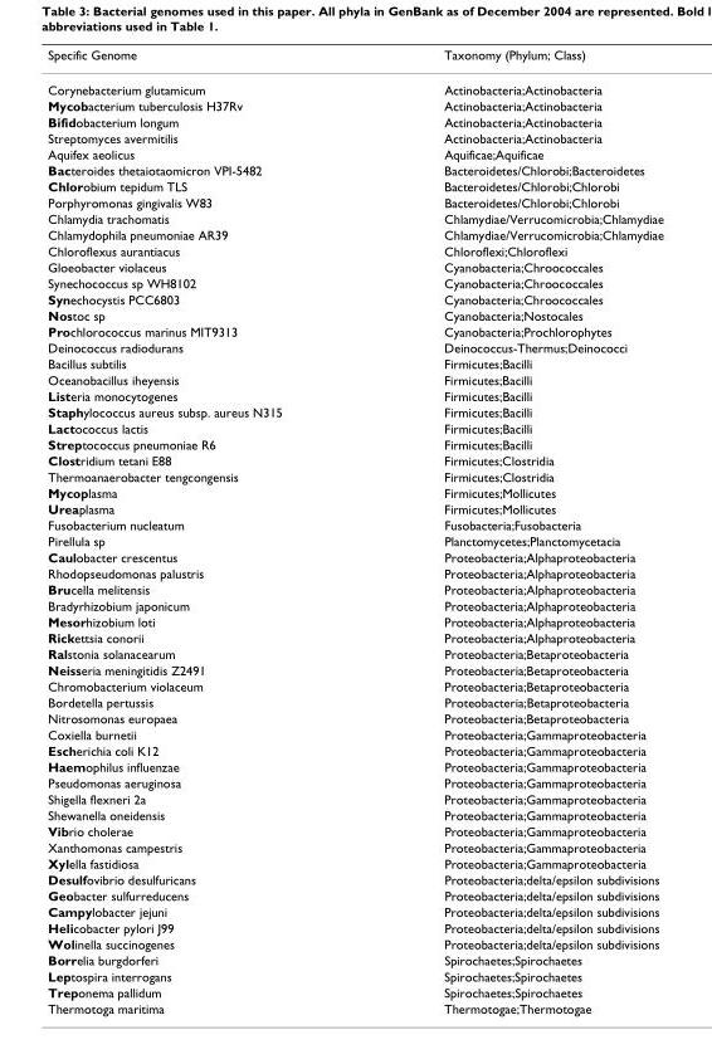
<table><thead><tr><td>Specific Genome</td><td>Taxonomy (Phylum; Class)</td></tr></thead><tbody><tr><td>Corynebacterium glutamicum</td><td>Actinobacteria;Actinobacteria</td></tr><tr><td>Mycobacterium tuberculosis H37Rv</td><td>Actinobacteria;Actinobacteria</td></tr><tr><td>Bifidobacterium longum</td><td>Actinobacteria;Actinobacteria</td></tr><tr><td>Streptomyces avermitilis</td><td>Actinobacteria;Actinobacteria</td></tr><tr><td>Aquifex aeolicus</td><td>Aquificae;Aquificae</td></tr><tr><td>Bacteroides thetaiotaomicron VPI-5482</td><td>Bacteroidetes/Chlorobi;Bacteroidetes</td></tr><tr><td>Chlorobium tepidum TLS</td><td>Bacteroidetes/Chlorobi;Chlorobi</td></tr><tr><td>Porphyromonas gingivalis W83</td><td>Bacteroidetes/Chlorobi;Chlorobi</td></tr><tr><td>Chlamydia trachomatis</td><td>Chlamydiae/Verrucomicrobia;Chlamydiae</td></tr><tr><td>Chlamydophila pneumoniae AR39</td><td>Chlamydiae/Verrucomicrobia;Chlamydiae</td></tr><tr><td>Chloroflexus aurantiacus</td><td>Chloroflexi;Chloroflexi</td></tr><tr><td>Gloeobacter violaceus</td><td>Cyanobacteria;Chroococcales</td></tr><tr><td>Synechococcus sp WH8102</td><td>Cyanobacteria;Chroococcales</td></tr><tr><td>Synechocystis PCC6803</td><td>Cyanobacteria;Chroococcales</td></tr><tr><td>Nostoc sp</td><td>Cyanobacteria;Nostocales</td></tr><tr><td>Prochlorococcus marinus MIT9313</td><td>Cyanobacteria;Prochlorophytes</td></tr><tr><td>Deinococcus radiodurans</td><td>Deinococcus-Thermus;Deinococci</td></tr><tr><td>Bacillus subtilis</td><td>Firmicutes;Bacilli</td></tr><tr><td>Oceanobacillus iheyensis</td><td>Firmicutes;Bacilli</td></tr><tr><td>Listeria monocytogenes</td><td>Firmicutes;Bacilli</td></tr><tr><td>Staphylococcus aureus subsp. aureus N315</td><td>Firmicutes;Bacilli</td></tr><tr><td>Lactococcus lactis</td><td>Firmicutes;Bacilli</td></tr><tr><td>Streptococcus pneumoniae R6</td><td>Firmicutes;Bacilli</td></tr><tr><td>Clostridium tetani E88</td><td>Firmicutes;Clostridia</td></tr><tr><td>Thermoanaerobacter tengcongensis</td><td>Firmicutes;Clostridia</td></tr><tr><td>Mycoplasma</td><td>Firmicutes;Mollicutes</td></tr><tr><td>Ureaplasma</td><td>Firmicutes;Mollicutes</td></tr><tr><td>Fusobacterium nucleatum</td><td>Fusobacteria;Fusobacteria</td></tr><tr><td>Pirellula sp</td><td>Planctomycetes;Planctomycetacia</td></tr><tr><td>Caulobacter crescentus</td><td>Proteobacteria;Alphaproteobacteria</td></tr><tr><td>Rhodopseudomonas palustris</td><td>Proteobacteria;Alphaproteobacteria</td></tr><tr><td>Brucella melitensis</td><td>Proteobacteria;Alphaproteobacteria</td></tr><tr><td>Bradyrhizobium japonicum</td><td>Proteobacteria;Alphaproteobacteria</td></tr><tr><td>Mesorhizobium loti</td><td>Proteobacteria;Alphaproteobacteria</td></tr><tr><td>Rickettsia conorii</td><td>Proteobacteria;Alphaproteobacteria</td></tr><tr><td>Ralstonia solanacearum</td><td>Proteobacteria;Betaproteobacteria</td></tr><tr><td>Neisseria meningitidis Z2491</td><td>Proteobacteria;Betaproteobacteria</td></tr><tr><td>Chromobacterium violaceum</td><td>Proteobacteria;Betaproteobacteria</td></tr><tr><td>Bordetella pertussis</td><td>Proteobacteria;Betaproteobacteria</td></tr><tr><td>Nitrosomonas europaea</td><td>Proteobacteria;Betaproteobacteria</td></tr><tr><td>Coxiella burnetii</td><td>Proteobacteria;Gammaproteobacteria</td></tr><tr><td>Escherichia coli K12</td><td>Proteobacteria;Gammaproteobacteria</td></tr><tr><td>Haemophilus influenzae</td><td>Proteobacteria;Gammaproteobacteria</td></tr><tr><td>Pseudomonas aeruginosa</td><td>Proteobacteria;Gammaproteobacteria</td></tr><tr><td>Shigella flexneri 2a</td><td>Proteobacteria;Gammaproteobacteria</td></tr><tr><td>Shewanella oneidensis</td><td>Proteobacteria;Gammaproteobacteria</td></tr><tr><td>Vibrio cholerae</td><td>Proteobacteria;Gammaproteobacteria</td></tr><tr><td>Xanthomonas campestris</td><td>Proteobacteria;Gammaproteobacteria</td></tr><tr><td>Xylella fastidiosa</td><td>Proteobacteria;Gammaproteobacteria</td></tr><tr><td>Desulfovibrio desulfuricans</td><td>Proteobacteria;delta/epsilon subdivisions</td></tr><tr><td>Geobacter sulfurreducens</td><td>Proteobacteria;delta/epsilon subdivisions</td></tr><tr><td>Campylobacter jejuni</td><td>Proteobacteria;delta/epsilon subdivisions</td></tr><tr><td>Helicobacter pylori J99</td><td>Proteobacteria;delta/epsilon subdivisions</td></tr><tr><td>Wolinella succinogenes</td><td>Proteobacteria;delta/epsilon subdivisions</td></tr><tr><td>Borrelia burgdorferi</td><td>Spirochaetes;Spirochaetes</td></tr><tr><td>Leptospira interrogans</td><td>Spirochaetes;Spirochaetes</td></tr><tr><td>Treponema pallidum</td><td>Spirochaetes;Spirochaetes</td></tr><tr><td>Thermotoga maritima</td><td>Thermotogae;Thermotogae</td></tr></tbody></table>